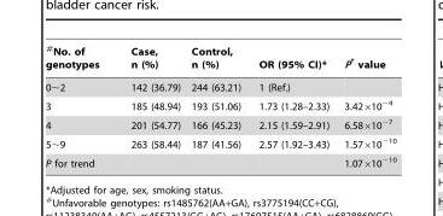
<table><thead><tr><td>#No. of genotypes</td><td>Case, n (%)</td><td>Control, n (%)</td><td>OR (95% CI)*</td><td>P* value</td></tr></thead><tbody><tr><td>0∼2</td><td>142 (36.79)</td><td>244 (63.21)</td><td>1 (Ref.)</td><td></td></tr><tr><td>3</td><td>185 (48.94)</td><td>193 (51.06)</td><td>1.73 (1.28–2.33)</td><td>3.42×10<sup>−4</sup></td></tr><tr><td>4</td><td>201 (54.77)</td><td>166 (45.23)</td><td>2.15 (1.59–2.91)</td><td>6.58×10<sup>−7</sup></td></tr><tr><td>5∼9</td><td>263 (58.44)</td><td>187 (41.56)</td><td>2.57 (1.92–3.43)</td><td>1.57×10<sup>−10</sup></td></tr><tr><td>P for trend</td><td></td><td></td><td></td><td>1.07×10<sup>−10</sup></td></tr></tbody></table>